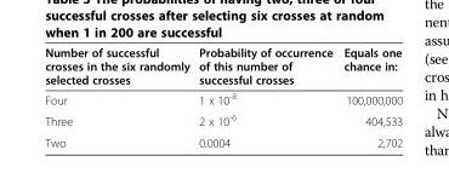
<table><thead><tr><td>Number of successful crosses in the six randomly selected crosses</td><td>Probability of occurrence of this number of successful crosses</td><td>Equals one chance in:</td></tr></thead><tbody><tr><td>Four</td><td>1 x 10<sup>-8</sup></td><td>100,000,000</td></tr><tr><td>Three</td><td>2 x 10<sup>-6</sup></td><td>404,533</td></tr><tr><td>Two</td><td>0.0004</td><td>2,702</td></tr></tbody></table>